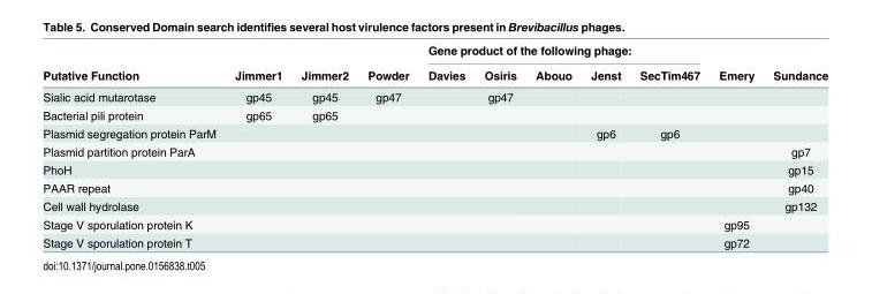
<table><thead><tr><td rowspan="2">Putative Function</td><td rowspan="2">Jimmer1</td><td rowspan="2">Jimmer2</td><td rowspan="2">Powder</td><td colspan="5">Gene product of the following phage:</td><td rowspan="2">Emery</td><td rowspan="2">Sundance</td></tr><tr><td>Davies</td><td>Osiris</td><td>Abouo</td><td>Jenst</td><td>SecTim467</td></tr></thead><tbody><tr><td>Sialic acid mutarotase</td><td>gp45</td><td>gp45</td><td>gp47</td><td></td><td>gp47</td><td></td><td></td><td></td><td></td><td></td></tr><tr><td>Bacterial pili protein</td><td>gp65</td><td>gp65</td><td></td><td></td><td></td><td></td><td></td><td></td><td></td><td></td></tr><tr><td>Plasmid segregation protein ParM</td><td></td><td></td><td></td><td></td><td></td><td></td><td>gp6</td><td>gp6</td><td></td><td></td></tr><tr><td>Plasmid partition protein ParA</td><td></td><td></td><td></td><td></td><td></td><td></td><td></td><td></td><td></td><td>gp7</td></tr><tr><td>PhoH</td><td></td><td></td><td></td><td></td><td></td><td></td><td></td><td></td><td></td><td>gp15</td></tr><tr><td>PAAR repeat</td><td></td><td></td><td></td><td></td><td></td><td></td><td></td><td></td><td></td><td>gp40</td></tr><tr><td>Cell wall hydrolase</td><td></td><td></td><td></td><td></td><td></td><td></td><td></td><td></td><td></td><td>gp132</td></tr><tr><td>Stage V sporulation protein K</td><td></td><td></td><td></td><td></td><td></td><td></td><td></td><td></td><td>gp95</td><td></td></tr><tr><td>Stage V sporulation protein T</td><td></td><td></td><td></td><td></td><td></td><td></td><td></td><td></td><td>gp72</td><td></td></tr></tbody></table>